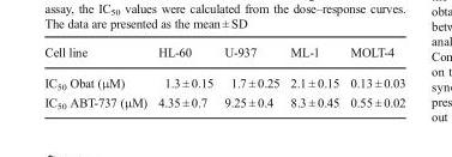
<table><thead><tr><td>Cell line</td><td>HL-60</td><td>U-937</td><td>ML-1</td><td>MOLT-4</td></tr></thead><tbody><tr><td>IC<sub>50</sub> Obat (μM)</td><td>1.3 ± 0.15</td><td>1.7 ± 0.25</td><td>2.1 ± 0.15</td><td>0.13 ± 0.03</td></tr><tr><td>IC<sub>50</sub> ABT-737 (μM)</td><td>4.35 ± 0.7</td><td>9.25 ± 0.4</td><td>8.3 ± 0.45</td><td>0.55 ± 0.02</td></tr></tbody></table>